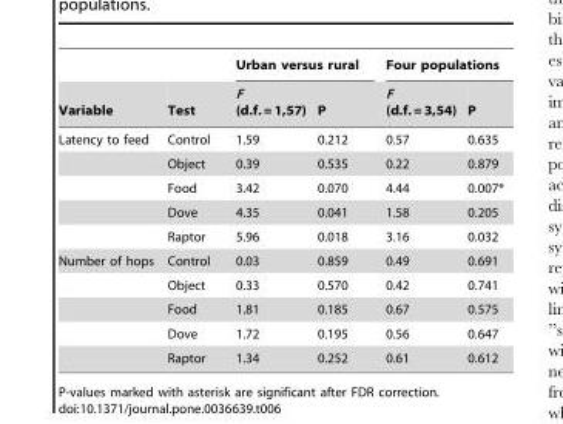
<table><thead><tr><td rowspan="2">Variable</td><td rowspan="2">Test</td><td colspan="2">Urban versus rural</td><td colspan="2">Four populations</td></tr><tr><td>F (d.f. = 1,57)</td><td>P</td><td>F (d.f. = 3,54)</td><td>P</td></tr></thead><tbody><tr><td rowspan="5">Latency to feed</td><td>Control</td><td>1.59</td><td>0.212</td><td>0.57</td><td>0.635</td></tr><tr><td>Object</td><td>0.39</td><td>0.535</td><td>0.22</td><td>0.879</td></tr><tr><td>Food</td><td>3.42</td><td>0.070</td><td>4.44</td><td>0.007*</td></tr><tr><td>Dove</td><td>4.35</td><td>0.041</td><td>1.58</td><td>0.205</td></tr><tr><td>Raptor</td><td>5.96</td><td>0.018</td><td>3.16</td><td>0.032</td></tr><tr><td rowspan="5">Number of hops</td><td>Control</td><td>0.03</td><td>0.859</td><td>0.49</td><td>0.691</td></tr><tr><td>Object</td><td>0.33</td><td>0.570</td><td>0.42</td><td>0.741</td></tr><tr><td>Food</td><td>1.81</td><td>0.185</td><td>0.67</td><td>0.575</td></tr><tr><td>Dove</td><td>1.72</td><td>0.195</td><td>0.56</td><td>0.647</td></tr><tr><td>Raptor</td><td>1.34</td><td>0.252</td><td>0.61</td><td>0.612</td></tr></tbody></table>